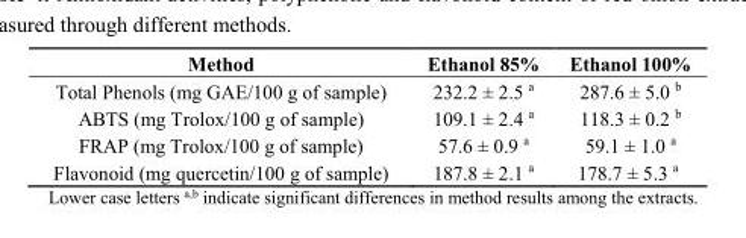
<table><thead><tr><td>Method</td><td>Ethanol 85%</td><td>Ethanol 100%</td></tr></thead><tbody><tr><td>Total Phenols (mg GAE/100 g of sample)</td><td>232.2 ± 2.5 <sup>a</sup></td><td>287.6 ± 5.0 <sup>b</sup></td></tr><tr><td>ABTS (mg Trolox/100 g of sample)</td><td>109.1 ± 2.4 <sup>a</sup></td><td>118.3 ± 0.2 <sup>b</sup></td></tr><tr><td>FRAP (mg Trolox/100 g of sample)</td><td>57.6 ± 0.9 <sup>a</sup></td><td>59.1 ± 1.0 <sup>a</sup></td></tr><tr><td>Flavonoid (mg quercetin/100 g of sample)</td><td>187.8 ± 2.1 <sup>a</sup></td><td>178.7 ± 5.3 <sup>a</sup></td></tr></tbody></table>